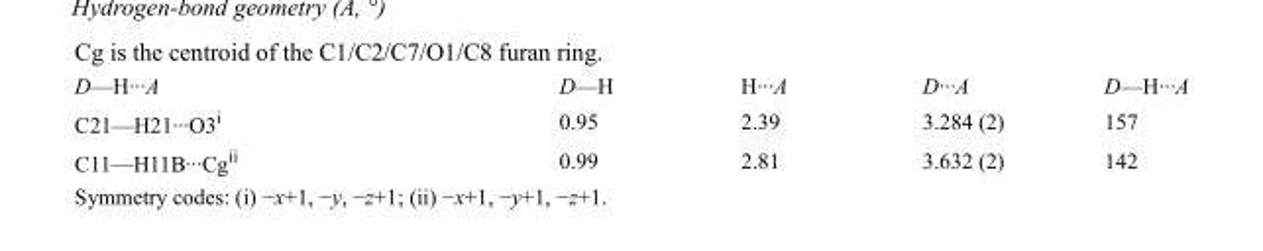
<table><tbody><tr><td>D—H···A</td><td>D—H</td><td>H···A</td><td>D···A</td><td>D—H···A</td></tr><tr><td>C21—H21···O3<sup>i</sup></td><td>0.95</td><td>2.39</td><td>3.284 (2)</td><td>157</td></tr><tr><td>C11—H11B···Cg<sup>ii</sup></td><td>0.99</td><td>2.81</td><td>3.632 (2)</td><td>142</td></tr></tbody></table>